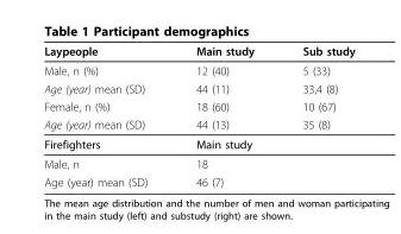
<table><thead><tr><td>Laypeople</td><td>Main study</td><td>Sub study</td></tr></thead><tbody><tr><td>Male, n (%)</td><td>12 (40)</td><td>5 (33)</td></tr><tr><td>Age (year) mean (SD)</td><td>44 (11)</td><td>33,4 (8)</td></tr><tr><td>Female, n (%)</td><td>18 (60)</td><td>10 (67)</td></tr><tr><td>Age (year) mean (SD)</td><td>44 (13)</td><td>35 (8)</td></tr><tr><td>Firefighters</td><td>Main study</td><td></td></tr><tr><td>Male, n</td><td>18</td><td></td></tr><tr><td>Age (year) mean (SD)</td><td>46 (7)</td><td></td></tr></tbody></table>